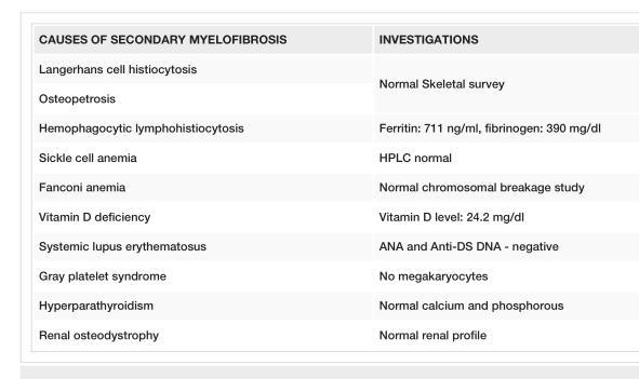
<table><tbody><tr><td>CAUSES OF SECONDARY MYELOFIBROSIS</td><td>INVESTIGATIONS</td></tr><tr><td>Langerhans cell histiocytosis</td><td rowspan="2">Normal Skeletal survey</td></tr><tr><td>Osteopetrosis</td></tr><tr><td>Hemophagocytic lymphohistiocytosis</td><td>Ferritin: 711 ng/ml, fibrinogen: 390 mg/dl</td></tr><tr><td>Sickle cell anemia</td><td>HPLC normal</td></tr><tr><td>Fanconi anemia</td><td>Normal chromosomal breakage study</td></tr><tr><td>Vitamin D deficiency</td><td>Vitamin D level: 24.2 mg/dl</td></tr><tr><td>Systemic lupus erythematosus</td><td>ANA and Anti-DS DNA - negative</td></tr><tr><td>Gray platelet syndrome</td><td>No megakaryocytes</td></tr><tr><td>Hyperparathyroidism</td><td>Normal calcium and phosphorous</td></tr><tr><td>Renal osteodystrophy</td><td>Normal renal profile</td></tr></tbody></table>